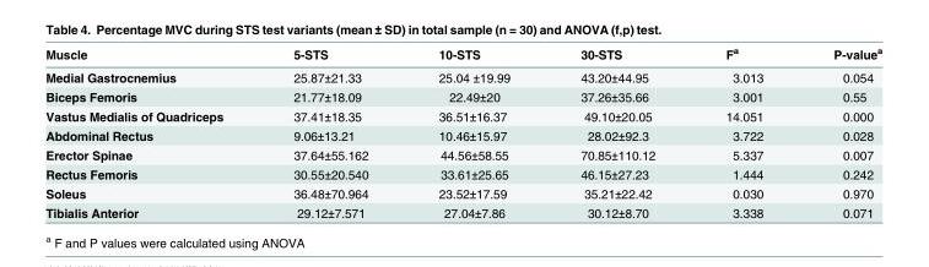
<table><thead><tr><td>Muscle</td><td>5-STS</td><td>10-STS</td><td>30-STS</td><td>F<sup>a</sup></td><td>P-value<sup>a</sup></td></tr></thead><tbody><tr><td>Medial Gastrocnemius</td><td>25.87±21.33</td><td>25.04 ±19.99</td><td>43.20±44.95</td><td>3.013</td><td>0.054</td></tr><tr><td>Biceps Femoris</td><td>21.77±18.09</td><td>22.49±20</td><td>37.26±35.66</td><td>3.001</td><td>0.55</td></tr><tr><td>Vastus Medialis of Quadriceps</td><td>37.41±18.35</td><td>36.51±16.37</td><td>49.10±20.05</td><td>14.051</td><td>0.000</td></tr><tr><td>Abdominal Rectus</td><td>9.06±13.21</td><td>10.46±15.97</td><td>28.02±92.3</td><td>3.722</td><td>0.028</td></tr><tr><td>Erector Spinae</td><td>37.64±55.162</td><td>44.56±58.55</td><td>70.85±110.12</td><td>5.337</td><td>0.007</td></tr><tr><td>Rectus Femoris</td><td>30.55±20.540</td><td>33.61±25.65</td><td>46.15±27.23</td><td>1.444</td><td>0.242</td></tr><tr><td>Soleus</td><td>36.48±70.964</td><td>23.52±17.59</td><td>35.21±22.42</td><td>0.030</td><td>0.970</td></tr><tr><td>Tibialis Anterior</td><td>29.12±7.571</td><td>27.04±7.86</td><td>30.12±8.70</td><td>3.338</td><td>0.071</td></tr></tbody></table>